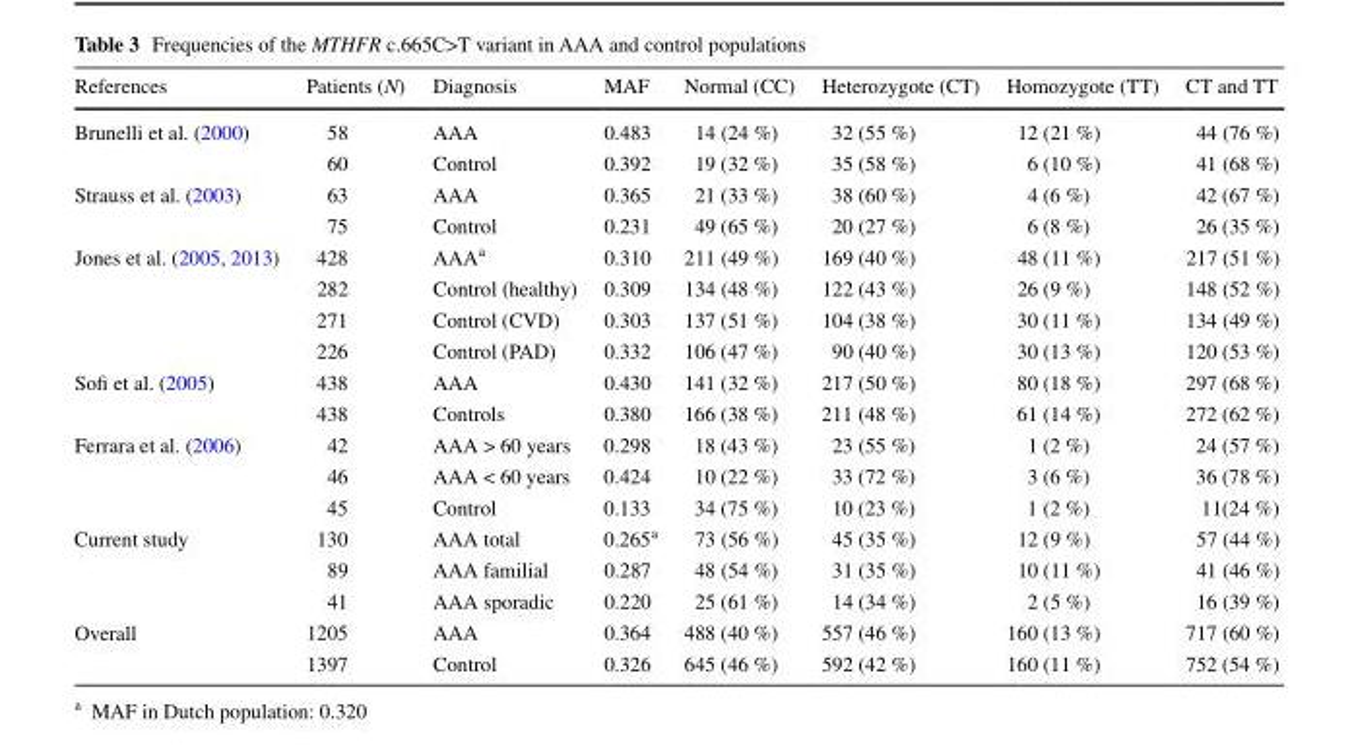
<table><thead><tr><td>References</td><td>Patients (N)</td><td>Diagnosis</td><td>MAF</td><td>Normal (CC)</td><td>Heterozygote (CT)</td><td>Homozygote (TT)</td><td>CT and TT</td></tr></thead><tbody><tr><td rowspan="2">Brunelli et al. (2000)</td><td>58</td><td>AAA</td><td>0.483</td><td>14 (24 %)</td><td>32 (55 %)</td><td>12 (21 %)</td><td>44 (76 %)</td></tr><tr><td>60</td><td>Control</td><td>0.392</td><td>19 (32 %)</td><td>35 (58 %)</td><td>6 (10 %)</td><td>41 (68 %)</td></tr><tr><td rowspan="2">Strauss et al. (2003)</td><td>63</td><td>AAA</td><td>0.365</td><td>21 (33 %)</td><td>38 (60 %)</td><td>4 (6 %)</td><td>42 (67 %)</td></tr><tr><td>75</td><td>Control</td><td>0.231</td><td>49 (65 %)</td><td>20 (27 %)</td><td>6 (8 %)</td><td>26 (35 %)</td></tr><tr><td rowspan="4">Jones et al. (2005, 2013)</td><td>428</td><td>AAA<sup>a</sup></td><td>0.310</td><td>211 (49 %)</td><td>169 (40 %)</td><td>48 (11 %)</td><td>217 (51 %)</td></tr><tr><td>282</td><td>Control (healthy)</td><td>0.309</td><td>134 (48 %)</td><td>122 (43 %)</td><td>26 (9 %)</td><td>148 (52 %)</td></tr><tr><td>271</td><td>Control (CVD)</td><td>0.303</td><td>137 (51 %)</td><td>104 (38 %)</td><td>30 (11 %)</td><td>134 (49 %)</td></tr><tr><td>226</td><td>Control (PAD)</td><td>0.332</td><td>106 (47 %)</td><td>90 (40 %)</td><td>30 (13 %)</td><td>120 (53 %)</td></tr><tr><td rowspan="2">Sofi et al. (2005)</td><td>438</td><td>AAA</td><td>0.430</td><td>141 (32 %)</td><td>217 (50 %)</td><td>80 (18 %)</td><td>297 (68 %)</td></tr><tr><td>438</td><td>Controls</td><td>0.380</td><td>166 (38 %)</td><td>211 (48 %)</td><td>61 (14 %)</td><td>272 (62 %)</td></tr><tr><td rowspan="3">Ferrara et al. (2006)</td><td>42</td><td>AAA &gt; 60 years</td><td>0.298</td><td>18 (43 %)</td><td>23 (55 %)</td><td>1 (2 %)</td><td>24 (57 %)</td></tr><tr><td>46</td><td>AAA &lt; 60 years</td><td>0.424</td><td>10 (22 %)</td><td>33 (72 %)</td><td>3 (6 %)</td><td>36 (78 %)</td></tr><tr><td>45</td><td>Control</td><td>0.133</td><td>34 (75 %)</td><td>10 (23 %)</td><td>1 (2 %)</td><td>11(24 %)</td></tr><tr><td rowspan="3">Current study</td><td>130</td><td>AAA total</td><td>0.265<sup>a</sup></td><td>73 (56 %)</td><td>45 (35 %)</td><td>12 (9 %)</td><td>57 (44 %)</td></tr><tr><td>89</td><td>AAA familial</td><td>0.287</td><td>48 (54 %)</td><td>31 (35 %)</td><td>10 (11 %)</td><td>41 (46 %)</td></tr><tr><td>41</td><td>AAA sporadic</td><td>0.220</td><td>25 (61 %)</td><td>14 (34 %)</td><td>2 (5 %)</td><td>16 (39 %)</td></tr><tr><td rowspan="2">Overall</td><td>1205</td><td>AAA</td><td>0.364</td><td>488 (40 %)</td><td>557 (46 %)</td><td>160 (13 %)</td><td>717 (60 %)</td></tr><tr><td>1397</td><td>Control</td><td>0.326</td><td>645 (46 %)</td><td>592 (42 %)</td><td>160 (11 %)</td><td>752 (54 %)</td></tr></tbody></table>